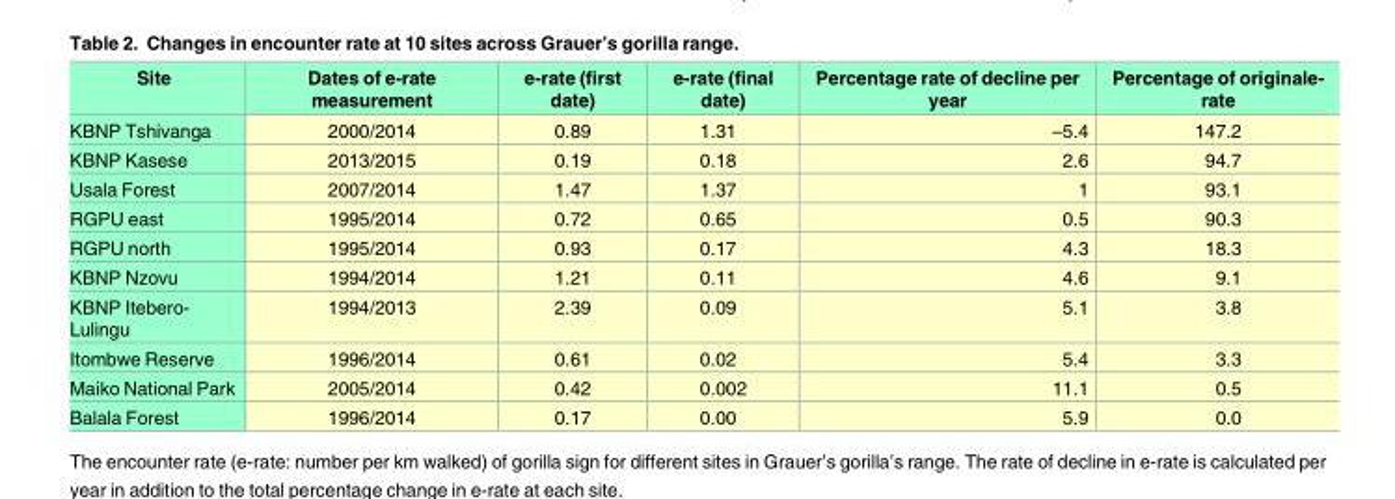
<table><thead><tr><td>Site</td><td>Dates of e-rate measurement</td><td>e-rate (first date)</td><td>e-rate (final date)</td><td>Percentage rate of decline per year</td><td>Percentage of originale- rate</td></tr></thead><tbody><tr><td>KBNP Tshivanga</td><td>2000/2014</td><td>0.89</td><td>1.31</td><td>–5.4</td><td>147.2</td></tr><tr><td>KBNP Kasese</td><td>2013/2015</td><td>0.19</td><td>0.18</td><td>2.6</td><td>94.7</td></tr><tr><td>Usala Forest</td><td>2007/2014</td><td>1.47</td><td>1.37</td><td>1</td><td>93.1</td></tr><tr><td>RGPU east</td><td>1995/2014</td><td>0.72</td><td>0.65</td><td>0.5</td><td>90.3</td></tr><tr><td>RGPU north</td><td>1995/2014</td><td>0.93</td><td>0.17</td><td>4.3</td><td>18.3</td></tr><tr><td>KBNP Nzovu</td><td>1994/2014</td><td>1.21</td><td>0.11</td><td>4.6</td><td>9.1</td></tr><tr><td>KBNP Itebero- Lulingu</td><td>1994/2013</td><td>2.39</td><td>0.09</td><td>5.1</td><td>3.8</td></tr><tr><td>Itombwe Reserve</td><td>1996/2014</td><td>0.61</td><td>0.02</td><td>5.4</td><td>3.3</td></tr><tr><td>Maiko National Park</td><td>2005/2014</td><td>0.42</td><td>0.002</td><td>11.1</td><td>0.5</td></tr><tr><td>Balala Forest</td><td>1996/2014</td><td>0.17</td><td>0.00</td><td>5.9</td><td>0.0</td></tr></tbody></table>